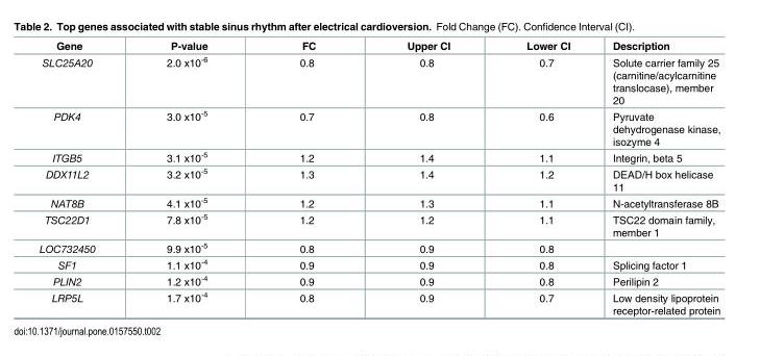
<table><thead><tr><td>Gene</td><td>P-value</td><td>FC</td><td>Upper CI</td><td>Lower CI</td><td>Description</td></tr></thead><tbody><tr><td>SLC25A20</td><td>2.0 x10<sup>-6</sup></td><td>0.8</td><td>0.8</td><td>0.7</td><td>Solute carrier family 25 (carnitine/acylcarnitine translocase), member 20</td></tr><tr><td>PDK4</td><td>3.0 x10<sup>-5</sup></td><td>0.7</td><td>0.8</td><td>0.6</td><td>Pyruvate dehydrogenase kinase, isozyme 4</td></tr><tr><td>ITGB5</td><td>3.1 x10<sup>-5</sup></td><td>1.2</td><td>1.4</td><td>1.1</td><td>Integrin, beta 5</td></tr><tr><td>DDX11L2</td><td>3.2 x10<sup>-5</sup></td><td>1.3</td><td>1.4</td><td>1.2</td><td>DEAD/H box helicase 11</td></tr><tr><td>NAT8B</td><td>4.1 x10<sup>-5</sup></td><td>1.2</td><td>1.3</td><td>1.1</td><td>N-acetyltransferase 8B</td></tr><tr><td>TSC22D1</td><td>7.8 x10<sup>-5</sup></td><td>1.2</td><td>1.2</td><td>1.1</td><td>TSC22 domain family, member 1</td></tr><tr><td>LOC732450</td><td>9.9 x10<sup>-5</sup></td><td>0.8</td><td>0.9</td><td>0.8</td><td></td></tr><tr><td>SF1</td><td>1.1 x10<sup>-4</sup></td><td>0.9</td><td>0.9</td><td>0.8</td><td>Splicing factor 1</td></tr><tr><td>PLIN2</td><td>1.2 x10<sup>-4</sup></td><td>0.9</td><td>0.9</td><td>0.8</td><td>Perilipin 2</td></tr><tr><td>LRP5L</td><td>1.7 x10<sup>-4</sup></td><td>0.8</td><td>0.9</td><td>0.7</td><td>Low density lipoprotein receptor-related protein</td></tr></tbody></table>